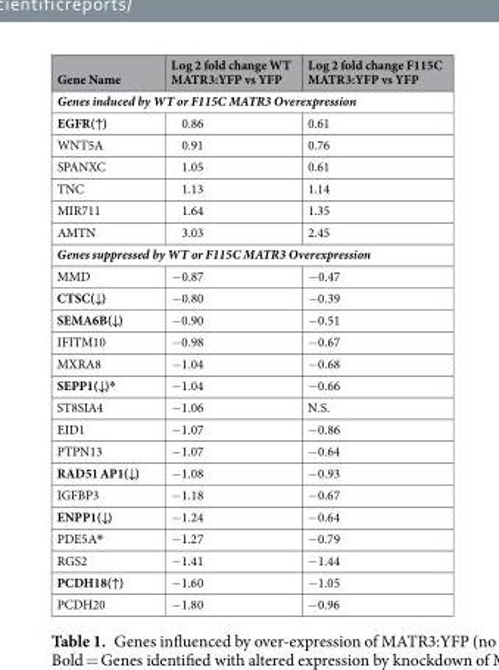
<table><thead><tr><td>Gene Name</td><td>Log 2 fold change WT MATR3:YFP vs YFP</td><td>Log 2 fold change F115C MATR3:YFP vs YFP</td></tr></thead><tbody><tr><td colspan="3">Genes induced by WT or F115C MATR3 Overexpression</td></tr><tr><td>EGFR(↑)</td><td>0.86</td><td>0.61</td></tr><tr><td>WNT5A</td><td>0.91</td><td>0.76</td></tr><tr><td>SPANXC</td><td>1.05</td><td>0.61</td></tr><tr><td>TNC</td><td>1.13</td><td>1.14</td></tr><tr><td>MIR711</td><td>1.64</td><td>1.35</td></tr><tr><td>AMTN</td><td>3.03</td><td>2.45</td></tr><tr><td colspan="3">Genes suppressed by WT or F115C MATR3 Overexpression</td></tr><tr><td>MMD</td><td>−0.87</td><td>−0.47</td></tr><tr><td>CTSC(↓)</td><td>−0.80</td><td>−0.39</td></tr><tr><td>SEMA6B(↓)</td><td>−0.90</td><td>−0.51</td></tr><tr><td>IFITM10</td><td>−0.98</td><td>−0.67</td></tr><tr><td>MXRA8</td><td>−1.04</td><td>−0.68</td></tr><tr><td>SEPP1(↓)*</td><td>−1.04</td><td>−0.66</td></tr><tr><td>ST8SIA4</td><td>−1.06</td><td>N.S.</td></tr><tr><td>EID1</td><td>−1.07</td><td>−0.86</td></tr><tr><td>PTPN13</td><td>−1.07</td><td>−0.64</td></tr><tr><td>RAD51 AP1(↓)</td><td>−1.08</td><td>−0.93</td></tr><tr><td>IGFBP3</td><td>−1.18</td><td>−0.67</td></tr><tr><td>ENPP1(↓)</td><td>−1.24</td><td>−0.64</td></tr><tr><td>PDE5A*</td><td>−1.27</td><td>−0.79</td></tr><tr><td>RGS2</td><td>−1.41</td><td>−1.44</td></tr><tr><td>PCDH18(↑)</td><td>−1.60</td><td>−1.05</td></tr><tr><td>PCDH20</td><td>−1.80</td><td>−0.96</td></tr></tbody></table>